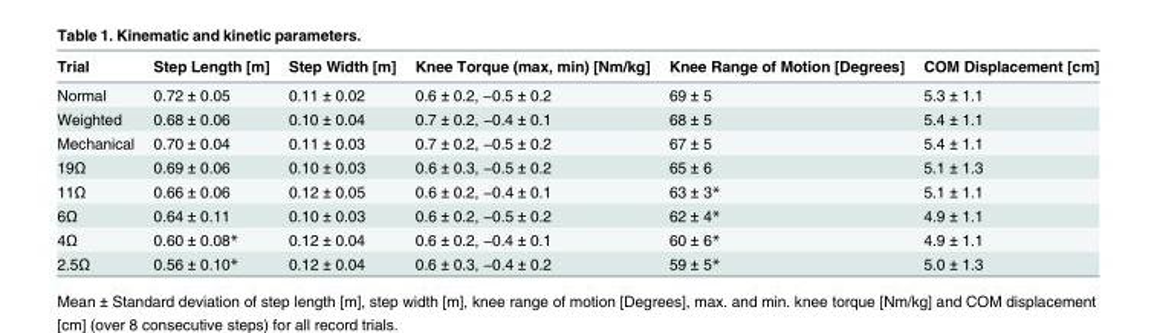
<table><thead><tr><td>Trial</td><td>Step Length [m]</td><td>Step Width [m]</td><td>Knee Torque (max, min) [Nm/kg]</td><td>Knee Range of Motion [Degrees]</td><td>COM Displacement [cm]</td></tr></thead><tbody><tr><td>Normal</td><td>0.72 ± 0.05</td><td>0.11 ± 0.02</td><td>0.6 ± 0.2, −0.5 ± 0.2</td><td>69 ± 5</td><td>5.3 ± 1.1</td></tr><tr><td>Weighted</td><td>0.68 ± 0.06</td><td>0.10 ± 0.04</td><td>0.7 ± 0.2, −0.4 ± 0.1</td><td>68 ± 5</td><td>5.4 ± 1.1</td></tr><tr><td>Mechanical</td><td>0.70 ± 0.04</td><td>0.11 ± 0.03</td><td>0.7 ± 0.2, −0.5 ± 0.2</td><td>67 ± 5</td><td>5.4 ± 1.1</td></tr><tr><td>19Ω</td><td>0.69 ± 0.06</td><td>0.10 ± 0.03</td><td>0.6 ± 0.3, −0.5 ± 0.2</td><td>65 ± 6</td><td>5.1 ± 1.3</td></tr><tr><td>11Ω</td><td>0.66 ± 0.06</td><td>0.12 ± 0.05</td><td>0.6 ± 0.2, −0.4 ± 0.1</td><td>63 ± 3*</td><td>5.1 ± 1.1</td></tr><tr><td>6Ω</td><td>0.64 ± 0.11</td><td>0.10 ± 0.03</td><td>0.6 ± 0.2, −0.5 ± 0.2</td><td>62 ± 4*</td><td>4.9 ± 1.1</td></tr><tr><td>4Ω</td><td>0.60 ± 0.08*</td><td>0.12 ± 0.04</td><td>0.6 ± 0.2, −0.4 ± 0.1</td><td>60 ± 6*</td><td>4.9 ± 1.1</td></tr><tr><td>2.5Ω</td><td>0.56 ± 0.10*</td><td>0.12 ± 0.04</td><td>0.6 ± 0.3, −0.4 ± 0.2</td><td>59 ± 5*</td><td>5.0 ± 1.3</td></tr></tbody></table>